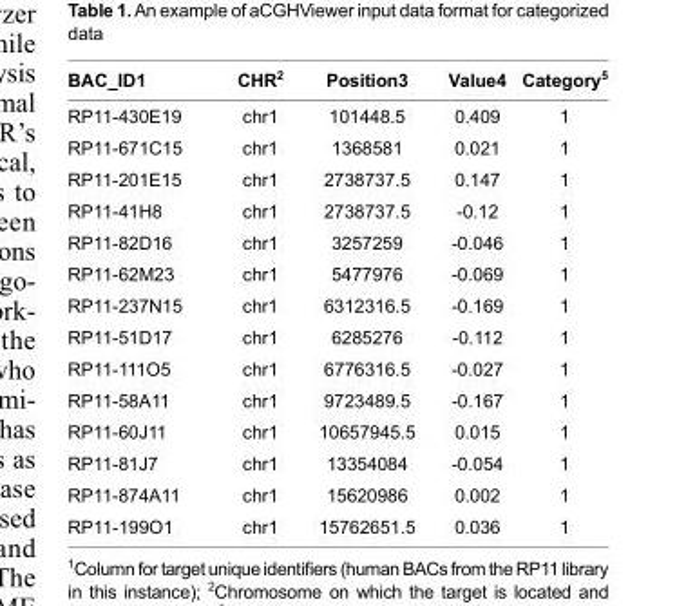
<table><thead><tr><td>BAC_ID<sup>1</sup></td><td>CHR<sup>2</sup></td><td>Position<sup>3</sup></td><td>Value<sup>4</sup></td><td>Category<sup>5</sup></td></tr></thead><tbody><tr><td>RP11-430E19</td><td>chr1</td><td>101448.5</td><td>0.409</td><td>1</td></tr><tr><td>RP11-671C15</td><td>chr1</td><td>1368581</td><td>0.021</td><td>1</td></tr><tr><td>RP11-201E15</td><td>chr1</td><td>2738737.5</td><td>0.147</td><td>1</td></tr><tr><td>RP11-41H8</td><td>chr1</td><td>2738737.5</td><td>-0.12</td><td>1</td></tr><tr><td>RP11-82D16</td><td>chr1</td><td>3257259</td><td>-0.046</td><td>1</td></tr><tr><td>RP11-62M23</td><td>chr1</td><td>5477976</td><td>-0.069</td><td>1</td></tr><tr><td>RP11-237N15</td><td>chr1</td><td>6312316.5</td><td>-0.169</td><td>1</td></tr><tr><td>RP11-51D17</td><td>chr1</td><td>6285276</td><td>-0.112</td><td>1</td></tr><tr><td>RP11-111O5</td><td>chr1</td><td>6776316.5</td><td>-0.027</td><td>1</td></tr><tr><td>RP11-58A11</td><td>chr1</td><td>9723489.5</td><td>-0.167</td><td>1</td></tr><tr><td>RP11-60J11</td><td>chr1</td><td>10657945.5</td><td>0.015</td><td>1</td></tr><tr><td>RP11-81J7</td><td>chr1</td><td>13354084</td><td>-0.054</td><td>1</td></tr><tr><td>RP11-874A11</td><td>chr1</td><td>15620986</td><td>0.002</td><td>1</td></tr><tr><td>RP11-199O1</td><td>chr1</td><td>15762651.5</td><td>0.036</td><td>1</td></tr></tbody></table>